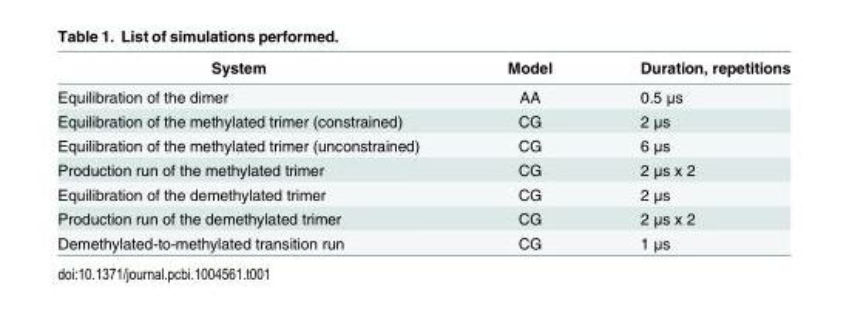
<table><thead><tr><td>System</td><td>Model</td><td>Duration, repetitions</td></tr></thead><tbody><tr><td>Equilibration of the dimer</td><td>AA</td><td>0.5 μs</td></tr><tr><td>Equilibration of the methylated trimer (constrained)</td><td>CG</td><td>2 μs</td></tr><tr><td>Equilibration of the methylated trimer (unconstrained)</td><td>CG</td><td>6 μs</td></tr><tr><td>Production run of the methylated trimer</td><td>CG</td><td>2 μs x 2</td></tr><tr><td>Equilibration of the demethylated trimer</td><td>CG</td><td>2 μs</td></tr><tr><td>Production run of the demethylated trimer</td><td>CG</td><td>2 μs x 2</td></tr><tr><td>Demethylated-to-methylated transition run</td><td>CG</td><td>1 μs</td></tr></tbody></table>